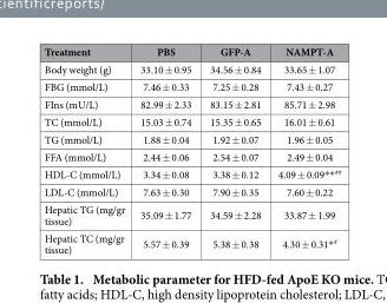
<table><thead><tr><td>Treatment</td><td>PBS</td><td>GFP-A</td><td>NAMPT-A</td></tr></thead><tbody><tr><td>Body weight (g)</td><td>33.10 ± 0.95</td><td>34.56 ± 0.84</td><td>33.65 ± 1.07</td></tr><tr><td>FBG (mmol/L)</td><td>7.46 ± 0.33</td><td>7.25 ± 0.28</td><td>7.43 ± 0.27</td></tr><tr><td>FIns (mU/L)</td><td>82.99 ± 2.33</td><td>83.15 ± 2.81</td><td>85.71 ± 2.98</td></tr><tr><td>TC (mmol/L)</td><td>15.03 ± 0.74</td><td>15.35 ± 0.65</td><td>16.01 ± 0.61</td></tr><tr><td>TG (mmol/L)</td><td>1.88 ± 0.04</td><td>1.92 ± 0.07</td><td>1.96 ± 0.05</td></tr><tr><td>FFA (mmol/L)</td><td>2.44 ± 0.06</td><td>2.54 ± 0.07</td><td>2.49 ± 0.04</td></tr><tr><td>HDL-C (mmol/L)</td><td>3.34 ± 0.08</td><td>3.38 ± 0.12</td><td>4.09 ± 0.09* * ##</td></tr><tr><td>LDL-C (mmol/L)</td><td>7.63 ± 0.30</td><td>7.90 ± 0.35</td><td>7.60 ± 0.22</td></tr><tr><td>Hepatic TG (mg/gr tissue)</td><td>35.09 ± 1.77</td><td>34.59 ± 2.28</td><td>33.87 ± 1.99</td></tr><tr><td>Hepatic TC (mg/gr tissue)</td><td>5.57 ± 0.39</td><td>5.38 ± 0.38</td><td>4.30 ± 0.31* #</td></tr></tbody></table>